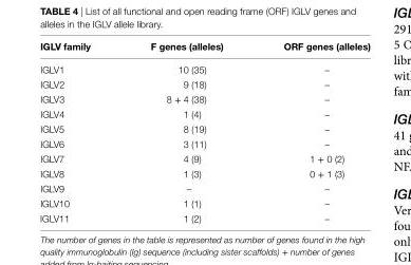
<table><thead><tr><td>iglV family</td><td>F genes (alleles)</td><td>OrF genes (alleles)</td></tr></thead><tbody><tr><td>IGLV1</td><td>10 (35)</td><td>–</td></tr><tr><td>IGLV2</td><td>9 (18)</td><td>–</td></tr><tr><td>IGLV3</td><td>8 + 4 (38)</td><td>–</td></tr><tr><td>IGLV4</td><td>1 (4)</td><td>–</td></tr><tr><td>IGLV5</td><td>8 (19)</td><td>–</td></tr><tr><td>IGLV6</td><td>3 (11)</td><td>–</td></tr><tr><td>IGLV7</td><td>4 (9)</td><td>1 + 0 (2)</td></tr><tr><td>IGLV8</td><td>1 (3)</td><td>0 + 1 (3)</td></tr><tr><td>IGLV9</td><td>–</td><td>–</td></tr><tr><td>IGLV10</td><td>1 (1)</td><td>–</td></tr><tr><td>IGLV11</td><td>1 (2)</td><td>–</td></tr></tbody></table>